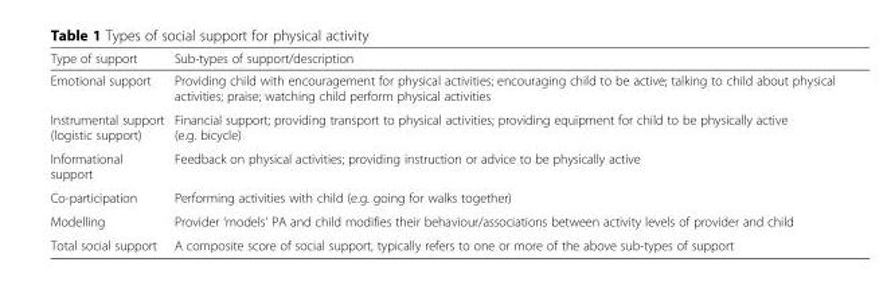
<table><thead><tr><td>Type of support</td><td>Sub-types of support/description</td></tr></thead><tbody><tr><td>Emotional support</td><td>Providing child with encouragement for physical activities; encouraging child to be active; talking to child about physical activities; praise; watching child perform physical activities</td></tr><tr><td>Instrumental support (logistic support)</td><td>Financial support; providing transport to physical activities; providing equipment for child to be physically active (e.g. bicycle)</td></tr><tr><td>Informational support</td><td>Feedback on physical activities; providing instruction or advice to be physically active</td></tr><tr><td>Co-participation</td><td>Performing activities with child (e.g. going for walks together)</td></tr><tr><td>Modelling</td><td>Provider ‘models’ PA and child modifies their behaviour/associations between activity levels of provider and child</td></tr><tr><td>Total social support</td><td>A composite score of social support, typically refers to one or more of the above sub-types of support</td></tr></tbody></table>